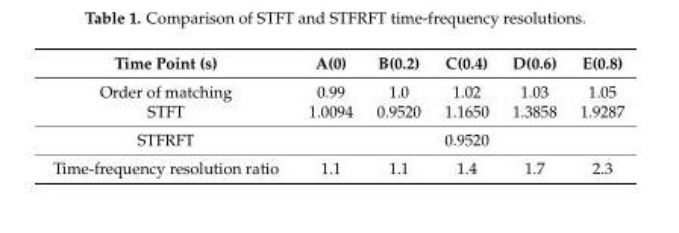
<table><thead><tr><td>Time Point (s)</td><td>A(0)</td><td>B(0.2)</td><td>C(0.4)</td><td>D(0.6)</td><td>E(0.8)</td></tr></thead><tbody><tr><td>Order of matching</td><td>0.99</td><td>1.0</td><td>1.02</td><td>1.03</td><td>1.05</td></tr><tr><td>STFT</td><td>1.0094</td><td>0.9520</td><td>1.1650</td><td>1.3858</td><td>1.9287</td></tr><tr><td>STFRFT</td><td colspan="5">0.9520</td></tr><tr><td>Time-frequency resolution ratio</td><td>1.1</td><td>1.1</td><td>1.4</td><td>1.7</td><td>2.3</td></tr></tbody></table>